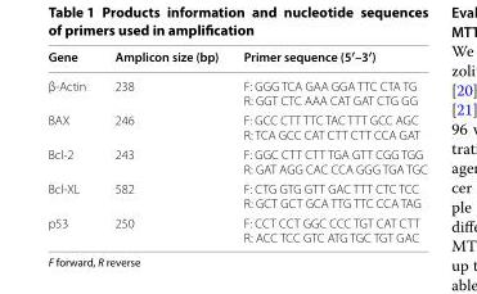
<table><thead><tr><td>Gene</td><td>Amplicon size (bp)</td><td>Primer sequence (5′–3′)</td></tr></thead><tbody><tr><td>β-Actin</td><td>238</td><td>F: GGG TCA GAA GGA TTC CTA TG R: GGT CTC AAA CAT GAT CTG GG</td></tr><tr><td>BAX</td><td>246</td><td>F: GCC CTT TTC TAC TTT GCC AGC R: TCA GCC CAT CTT CTT CCA GAT</td></tr><tr><td>Bcl-2</td><td>243</td><td>F: GGC CTT CTT TGA GTT CGG TGG R: GAT AGG CAC CCA GGG TGA TGC</td></tr><tr><td>Bcl-XL</td><td>582</td><td>F: CTG GTG GTT GAC TTT CTC TCC R: GCT GCT GCA TTG TTC CCA TAG</td></tr><tr><td>p53</td><td>250</td><td>F: CCT CCT GGC CCC TGT CAT CTT R: ACC TCC GTC ATG TGC TGT GAC</td></tr></tbody></table>